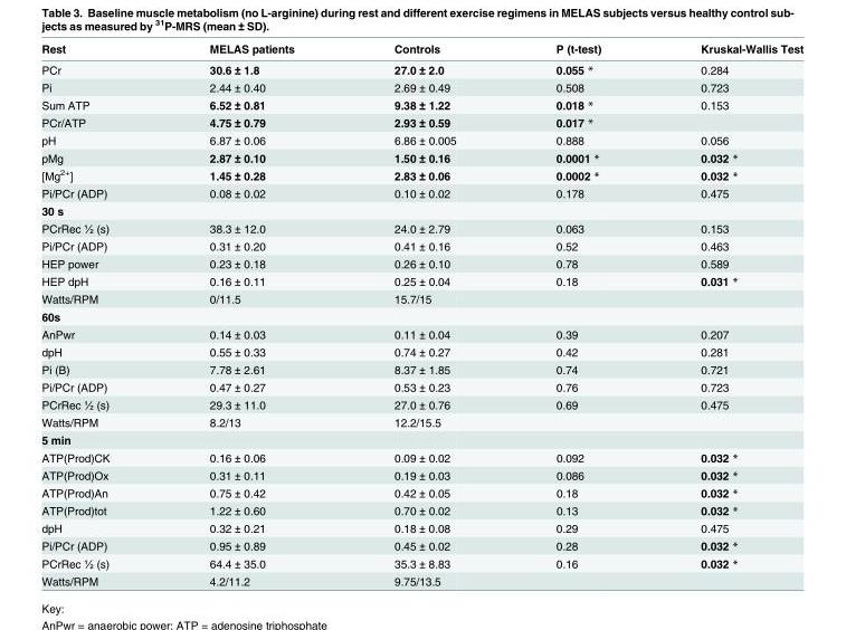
<table><thead><tr><td>Rest</td><td>MELAS patients</td><td>Controls</td><td>P (t-test)</td><td>Kruskal-Wallis Test</td></tr></thead><tbody><tr><td>PCr</td><td>30.6 ± 1.8</td><td>27.0 ± 2.0</td><td>0.055 *</td><td>0.284</td></tr><tr><td>Pi</td><td>2.44 ± 0.40</td><td>2.69 ± 0.49</td><td>0.508</td><td>0.723</td></tr><tr><td>Sum ATP</td><td>6.52 ± 0.81</td><td>9.38 ± 1.22</td><td>0.018 *</td><td>0.153</td></tr><tr><td>PCr/ATP</td><td>4.75 ± 0.79</td><td>2.93 ± 0.59</td><td>0.017 *</td><td></td></tr><tr><td>pH</td><td>6.87 ± 0.06</td><td>6.86 ± 0.005</td><td>0.888</td><td>0.056</td></tr><tr><td>pMg</td><td>2.87 ± 0.10</td><td>1.50 ± 0.16</td><td>0.0001 *</td><td>0.032 *</td></tr><tr><td>[Mg<sup>2+</sup>]</td><td>1.45 ± 0.28</td><td>2.83 ± 0.06</td><td>0.0002 *</td><td>0.032 *</td></tr><tr><td>Pi/PCr (ADP)</td><td>0.08 ± 0.02</td><td>0.10 ± 0.02</td><td>0.178</td><td>0.475</td></tr><tr><td colspan="5">30 s</td></tr><tr><td>PCrRec ½ (s)</td><td>38.3 ± 12.0</td><td>24.0 ± 2.79</td><td>0.063</td><td>0.153</td></tr><tr><td>Pi/PCr (ADP)</td><td>0.31 ± 0.20</td><td>0.41 ± 0.16</td><td>0.52</td><td>0.463</td></tr><tr><td>HEP power</td><td>0.23 ± 0.18</td><td>0.26 ± 0.10</td><td>0.78</td><td>0.589</td></tr><tr><td>HEP dpH</td><td>0.16 ± 0.11</td><td>0.25 ± 0.04</td><td>0.18</td><td>0.031 *</td></tr><tr><td>Watts/RPM</td><td>0/11.5</td><td>15.7/15</td><td></td><td></td></tr><tr><td colspan="5">60s</td></tr><tr><td>AnPwr</td><td>0.14 ± 0.03</td><td>0.11 ± 0.04</td><td>0.39</td><td>0.207</td></tr><tr><td>dpH</td><td>0.55 ± 0.33</td><td>0.74 ± 0.27</td><td>0.42</td><td>0.281</td></tr><tr><td>Pi (B)</td><td>7.78 ± 2.61</td><td>8.37 ± 1.85</td><td>0.74</td><td>0.721</td></tr><tr><td>Pi/PCr (ADP)</td><td>0.47 ± 0.27</td><td>0.53 ± 0.23</td><td>0.76</td><td>0.723</td></tr><tr><td>PCrRec ½ (s)</td><td>29.3 ± 11.0</td><td>27.0 ± 0.76</td><td>0.69</td><td>0.475</td></tr><tr><td>Watts/RPM</td><td>8.2/13</td><td>12.2/15.5</td><td></td><td></td></tr><tr><td colspan="5">5 min</td></tr><tr><td>ATP(Prod)CK</td><td>0.16 ± 0.06</td><td>0.09 ± 0.02</td><td>0.092</td><td>0.032 *</td></tr><tr><td>ATP(Prod)Ox</td><td>0.31 ± 0.11</td><td>0.19 ± 0.03</td><td>0.086</td><td>0.032 *</td></tr><tr><td>ATP(Prod)An</td><td>0.75 ± 0.42</td><td>0.42 ± 0.05</td><td>0.18</td><td>0.032 *</td></tr><tr><td>ATP(Prod)tot</td><td>1.22 ± 0.60</td><td>0.70 ± 0.02</td><td>0.13</td><td>0.032 *</td></tr><tr><td>dpH</td><td>0.32 ± 0.21</td><td>0.18 ± 0.08</td><td>0.29</td><td>0.475</td></tr><tr><td>Pi/PCr (ADP)</td><td>0.95 ± 0.89</td><td>0.45 ± 0.02</td><td>0.28</td><td>0.032 *</td></tr><tr><td>PCrRec ½ (s)</td><td>64.4 ± 35.0</td><td>35.3 ± 8.83</td><td>0.16</td><td>0.032 *</td></tr><tr><td>Watts/RPM</td><td>4.2/11.2</td><td>9.75/13.5</td><td></td><td></td></tr></tbody></table>